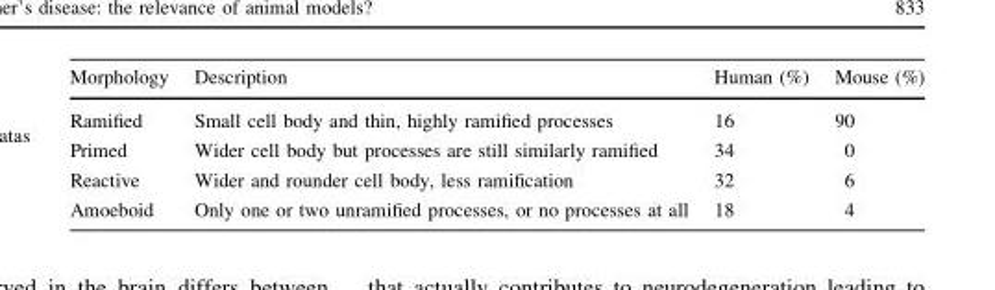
<table><thead><tr><td>Morphology</td><td>Description</td><td>Human (%)</td><td>Mouse (%)</td></tr></thead><tbody><tr><td>Ramified</td><td>Small cell body and thin, highly ramified processes</td><td>16</td><td>90</td></tr><tr><td>Primed</td><td>Wider cell body but processes are still similarly ramified</td><td>34</td><td>0</td></tr><tr><td>Reactive</td><td>Wider and rounder cell body, less ramification</td><td>32</td><td>6</td></tr><tr><td>Amoeboid</td><td>Only one or two unramified processes, or no processes at all</td><td>18</td><td>4</td></tr></tbody></table>